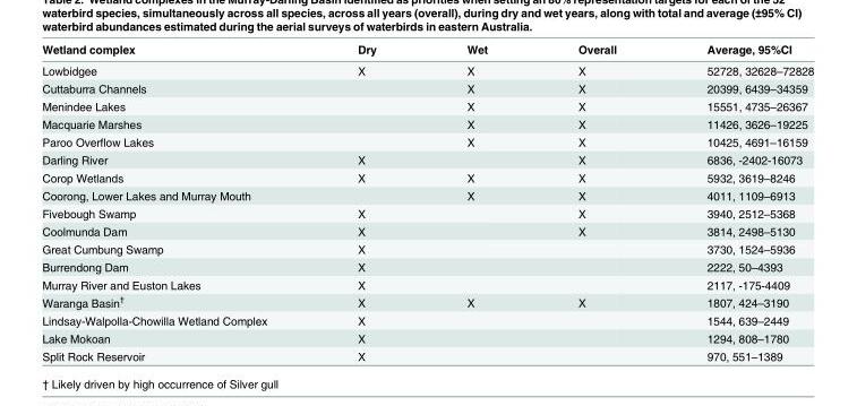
<table><thead><tr><td>Wetland complex</td><td>Dry</td><td>Wet</td><td>Overall</td><td>Average, 95%CI</td></tr></thead><tbody><tr><td>Lowbidgee</td><td>X</td><td>X</td><td>X</td><td>52728, 32628–72828</td></tr><tr><td>Cuttaburra Channels</td><td></td><td>X</td><td>X</td><td>20399, 6439–34359</td></tr><tr><td>Menindee Lakes</td><td></td><td>X</td><td>X</td><td>15551, 4735–26367</td></tr><tr><td>Macquarie Marshes</td><td></td><td>X</td><td>X</td><td>11426, 3626–19225</td></tr><tr><td>Paroo Overflow Lakes</td><td></td><td>X</td><td>X</td><td>10425, 4691–16159</td></tr><tr><td>Darling River</td><td>X</td><td></td><td>X</td><td>6836, -2402-16073</td></tr><tr><td>Corop Wetlands</td><td>X</td><td>X</td><td>X</td><td>5932, 3619–8246</td></tr><tr><td>Coorong, Lower Lakes and Murray Mouth</td><td></td><td>X</td><td>X</td><td>4011, 1109–6913</td></tr><tr><td>Fivebough Swamp</td><td>X</td><td></td><td>X</td><td>3940, 2512–5368</td></tr><tr><td>Coolmunda Dam</td><td>X</td><td></td><td>X</td><td>3814, 2498–5130</td></tr><tr><td>Great Cumbung Swamp</td><td>X</td><td></td><td></td><td>3730, 1524–5936</td></tr><tr><td>Burrendong Dam</td><td>X</td><td></td><td></td><td>2222, 50–4393</td></tr><tr><td>Murray River and Euston Lakes</td><td>X</td><td></td><td></td><td>2117, -175-4409</td></tr><tr><td>Waranga Basin<sup>†</sup></td><td>X</td><td>X</td><td>X</td><td>1807, 424–3190</td></tr><tr><td>Lindsay-Walpolla-Chowilla Wetland Complex</td><td>X</td><td></td><td></td><td>1544, 639–2449</td></tr><tr><td>Lake Mokoan</td><td>X</td><td></td><td></td><td>1294, 808–1780</td></tr><tr><td>Split Rock Reservoir</td><td>X</td><td></td><td></td><td>970, 551–1389</td></tr></tbody></table>